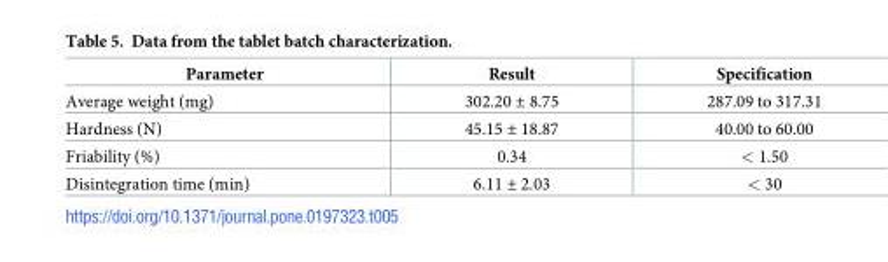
<table><thead><tr><td>Parameter</td><td>Result</td><td>Specification</td></tr></thead><tbody><tr><td>Average weight (mg)</td><td>302.20 ± 8.75</td><td>287.09 to 317.31</td></tr><tr><td>Hardness (N)</td><td>45.15 ± 18.87</td><td>40.00 to 60.00</td></tr><tr><td>Friability (%)</td><td>0.34</td><td>&lt; 1.50</td></tr><tr><td>Disintegration time (min)</td><td>6.11 ± 2.03</td><td>&lt; 30</td></tr></tbody></table>